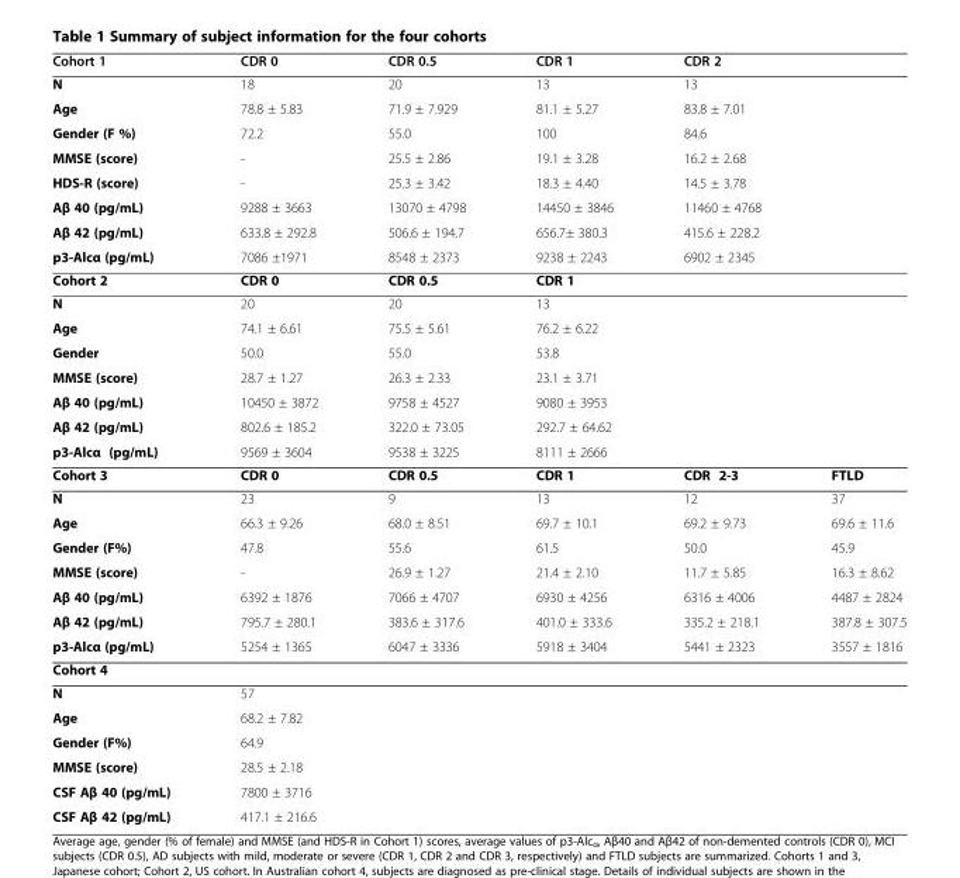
<table><thead><tr><td>Cohort 1</td><td>CDR 0</td><td>CDR 0.5</td><td>CDR 1</td><td>CDR 2</td><td></td></tr></thead><tbody><tr><td>N</td><td>18</td><td>20</td><td>13</td><td>13</td><td></td></tr><tr><td>Age</td><td>78.8 ± 5.83</td><td>71.9 ± 7.929</td><td>81.1 ± 5.27</td><td>83.8 ± 7.01</td><td></td></tr><tr><td>Gender (F %)</td><td>72.2</td><td>55.0</td><td>100</td><td>84.6</td><td></td></tr><tr><td>MMSE (score)</td><td>-</td><td>25.5 ± 2.86</td><td>19.1 ± 3.28</td><td>16.2 ± 2.68</td><td></td></tr><tr><td>HDS-R (score)</td><td>-</td><td>25.3 ± 3.42</td><td>18.3 ± 4.40</td><td>14.5 ± 3.78</td><td></td></tr><tr><td>Aβ 40 (pg/mL)</td><td>9288 ± 3663</td><td>13070 ± 4798</td><td>14450 ± 3846</td><td>11460 ± 4768</td><td></td></tr><tr><td>Aβ 42 (pg/mL)</td><td>633.8 ± 292.8</td><td>506.6 ± 194.7</td><td>656.7± 380.3</td><td>415.6 ± 228.2</td><td></td></tr><tr><td>p3-Alcα (pg/mL)</td><td>7086 ±1971</td><td>8548 ± 2373</td><td>9238 ± 2243</td><td>6902 ± 2345</td><td></td></tr><tr><td>Cohort 2</td><td>CDR 0</td><td>CDR 0.5</td><td>CDR 1</td><td></td><td></td></tr><tr><td>N</td><td>20</td><td>20</td><td>13</td><td></td><td></td></tr><tr><td>Age</td><td>74.1 ± 6.61</td><td>75.5 ± 5.61</td><td>76.2 ± 6.22</td><td></td><td></td></tr><tr><td>Gender</td><td>50.0</td><td>55.0</td><td>53.8</td><td></td><td></td></tr><tr><td>MMSE (score)</td><td>28.7 ± 1.27</td><td>26.3 ± 2.33</td><td>23.1 ± 3.71</td><td></td><td></td></tr><tr><td>Aβ 40 (pg/mL)</td><td>10450 ± 3872</td><td>9758 ± 4527</td><td>9080 ± 3953</td><td></td><td></td></tr><tr><td>Aβ 42 (pg/mL)</td><td>802.6 ± 185.2</td><td>322.0 ± 73.05</td><td>292.7 ± 64.62</td><td></td><td></td></tr><tr><td>p3-Alcα (pg/mL)</td><td>9569 ± 3604</td><td>9538 ± 3225</td><td>8111 ± 2666</td><td></td><td></td></tr><tr><td>Cohort 3</td><td>CDR 0</td><td>CDR 0.5</td><td>CDR 1</td><td>CDR 2-3</td><td>FTLD</td></tr><tr><td>N</td><td>23</td><td>9</td><td>13</td><td>12</td><td>37</td></tr><tr><td>Age</td><td>66.3 ± 9.26</td><td>68.0 ± 8.51</td><td>69.7 ± 10.1</td><td>69.2 ± 9.73</td><td>69.6 ± 11.6</td></tr><tr><td>Gender (F%)</td><td>47.8</td><td>55.6</td><td>61.5</td><td>50.0</td><td>45.9</td></tr><tr><td>MMSE (score)</td><td>-</td><td>26.9 ± 1.27</td><td>21.4 ± 2.10</td><td>11.7 ± 5.85</td><td>16.3 ± 8.62</td></tr><tr><td>Aβ 40 (pg/mL)</td><td>6392 ± 1876</td><td>7066 ± 4707</td><td>6930 ± 4256</td><td>6316 ± 4006</td><td>4487 ± 2824</td></tr><tr><td>Aβ 42 (pg/mL)</td><td>795.7 ± 280.1</td><td>383.6 ± 317.6</td><td>401.0 ± 333.6</td><td>335.2 ± 218.1</td><td>387.8 ± 307.5</td></tr><tr><td>p3-Alcα (pg/mL)</td><td>5254 ± 1365</td><td>6047 ± 3336</td><td>5918 ± 3404</td><td>5441 ± 2323</td><td>3557 ± 1816</td></tr><tr><td colspan="6">Cohort 4</td></tr><tr><td>N</td><td>57</td><td></td><td></td><td></td><td></td></tr><tr><td>Age</td><td>68.2 ± 7.82</td><td></td><td></td><td></td><td></td></tr><tr><td>Gender (F%)</td><td>64.9</td><td></td><td></td><td></td><td></td></tr><tr><td>MMSE (score)</td><td>28.5 ± 2.18</td><td></td><td></td><td></td><td></td></tr><tr><td>CSF Aβ 40 (pg/mL)</td><td>7800 ± 3716</td><td></td><td></td><td></td><td></td></tr><tr><td>CSF Aβ 42 (pg/mL)</td><td>417.1 ± 216.6</td><td></td><td></td><td></td><td></td></tr></tbody></table>